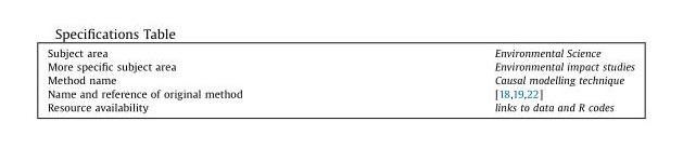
<table><tbody><tr><td>Subject area</td><td>Environmental Science</td></tr><tr><td>More specific subject area</td><td>Environmental impact studies</td></tr><tr><td>Method name</td><td>Causal modelling technique</td></tr><tr><td>Name and reference of original method</td><td>[18,19,22]</td></tr><tr><td>Resource availability</td><td>links to data and R codes</td></tr></tbody></table>